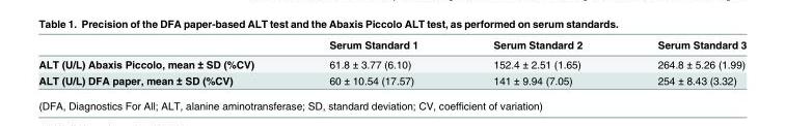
<table><thead><tr><td></td><td>Serum Standard 1</td><td>Serum Standard 2</td><td>Serum Standard 3</td></tr></thead><tbody><tr><td>ALT (U/L) Abaxis Piccolo, mean ± SD (%CV)</td><td>61.8 ± 3.77 (6.10)</td><td>152.4 ± 2.51 (1.65)</td><td>264.8 ± 5.26 (1.99)</td></tr><tr><td>ALT (U/L) DFA paper, mean ± SD (%CV)</td><td>60 ± 10.54 (17.57)</td><td>141 ± 9.94 (7.05)</td><td>254 ± 8.43 (3.32)</td></tr></tbody></table>